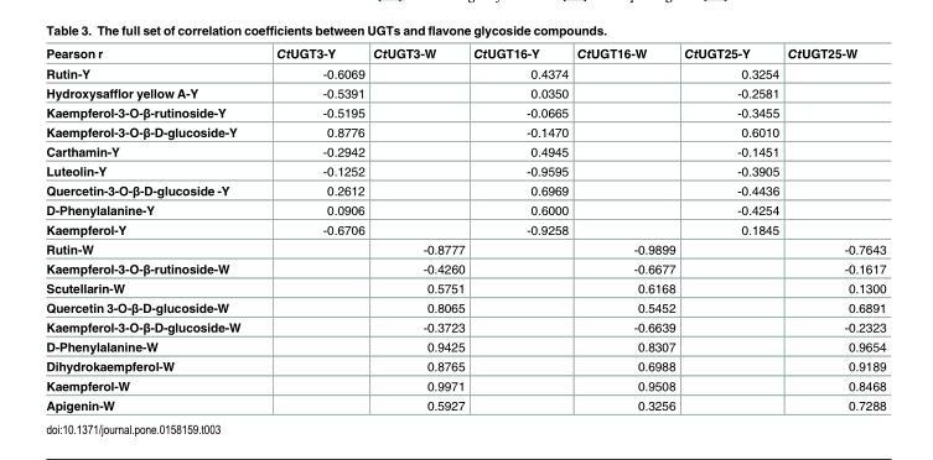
<table><thead><tr><td>Pearson r</td><td>CtUGT3-Y</td><td>CtUGT3-W</td><td>CtUGT16-Y</td><td>CtUGT16-W</td><td>CtUGT25-Y</td><td>CtUGT25-W</td></tr></thead><tbody><tr><td>Rutin-Y</td><td>-0.6069</td><td></td><td>0.4374</td><td></td><td>0.3254</td><td></td></tr><tr><td>Hydroxysafflor yellow A-Y</td><td>-0.5391</td><td></td><td>0.0350</td><td></td><td>-0.2581</td><td></td></tr><tr><td>Kaempferol-3-O-β-rutinoside-Y</td><td>-0.5195</td><td></td><td>-0.0665</td><td></td><td>-0.3455</td><td></td></tr><tr><td>Kaempferol-3-O-β-D-glucoside-Y</td><td>0.8776</td><td></td><td>-0.1470</td><td></td><td>0.6010</td><td></td></tr><tr><td>Carthamin-Y</td><td>-0.2942</td><td></td><td>0.4945</td><td></td><td>-0.1451</td><td></td></tr><tr><td>Luteolin-Y</td><td>-0.1252</td><td></td><td>-0.9595</td><td></td><td>-0.3905</td><td></td></tr><tr><td>Quercetin-3-O-β-D-glucoside -Y</td><td>0.2612</td><td></td><td>0.6969</td><td></td><td>-0.4436</td><td></td></tr><tr><td>D-Phenylalanine-Y</td><td>0.0906</td><td></td><td>0.6000</td><td></td><td>-0.4254</td><td></td></tr><tr><td>Kaempferol-Y</td><td>-0.6706</td><td></td><td>-0.9258</td><td></td><td>0.1845</td><td></td></tr><tr><td>Rutin-W</td><td></td><td>-0.8777</td><td></td><td>-0.9899</td><td></td><td>-0.7643</td></tr><tr><td>Kaempferol-3-O-β-rutinoside-W</td><td></td><td>-0.4260</td><td></td><td>-0.6677</td><td></td><td>-0.1617</td></tr><tr><td>Scutellarin-W</td><td></td><td>0.5751</td><td></td><td>0.6168</td><td></td><td>0.1300</td></tr><tr><td>Quercetin 3-O-β-D-glucoside-W</td><td></td><td>0.8065</td><td></td><td>0.5452</td><td></td><td>0.6891</td></tr><tr><td>Kaempferol-3-O-β-D-glucoside-W</td><td></td><td>-0.3723</td><td></td><td>-0.6639</td><td></td><td>-0.2323</td></tr><tr><td>D-Phenylalanine-W</td><td></td><td>0.9425</td><td></td><td>0.8307</td><td></td><td>0.9654</td></tr><tr><td>Dihydrokaempferol-W</td><td></td><td>0.8765</td><td></td><td>0.6988</td><td></td><td>0.9189</td></tr><tr><td>Kaempferol-W</td><td></td><td>0.9971</td><td></td><td>0.9508</td><td></td><td>0.8468</td></tr><tr><td>Apigenin-W</td><td></td><td>0.5927</td><td></td><td>0.3256</td><td></td><td>0.7288</td></tr></tbody></table>